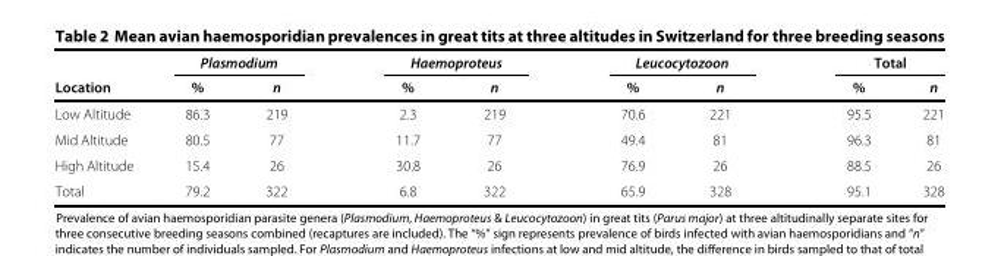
<table><thead><tr><td rowspan="2">Location</td><td colspan="2">Plasmodium</td><td colspan="2">Haemoproteus</td><td colspan="2">Leucocytozoon</td><td colspan="2">Total</td></tr><tr><td>%</td><td>n</td><td>%</td><td>n</td><td>%</td><td>n</td><td>%</td><td>n</td></tr></thead><tbody><tr><td>Low Altitude</td><td>86.3</td><td>219</td><td>2.3</td><td>219</td><td>70.6</td><td>221</td><td>95.5</td><td>221</td></tr><tr><td>Mid Altitude</td><td>80.5</td><td>77</td><td>11.7</td><td>77</td><td>49.4</td><td>81</td><td>96.3</td><td>81</td></tr><tr><td>High Altitude</td><td>15.4</td><td>26</td><td>30.8</td><td>26</td><td>76.9</td><td>26</td><td>88.5</td><td>26</td></tr><tr><td>Total</td><td>79.2</td><td>322</td><td>6.8</td><td>322</td><td>65.9</td><td>328</td><td>95.1</td><td>328</td></tr></tbody></table>